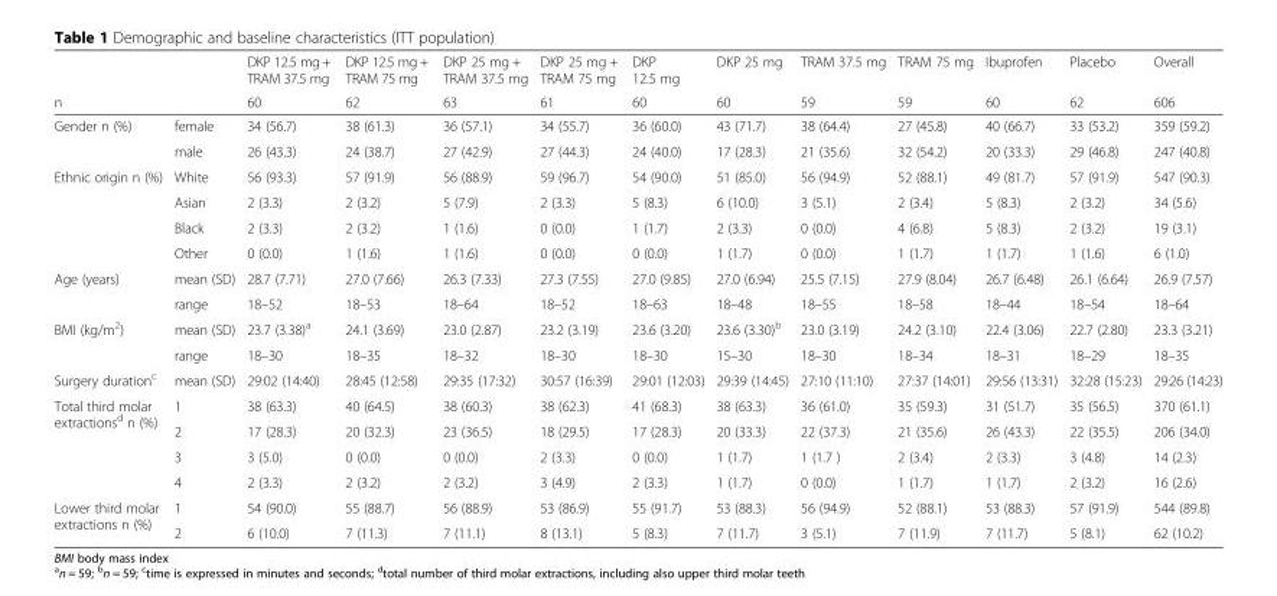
<table><thead><tr><td></td><td></td><td rowspan="2">DKP 12.5 mg + TRAM 37.5 mg 60</td><td rowspan="2">DKP 12.5 mg + TRAM 75 mg 62</td><td rowspan="2">DKP 25 mg + TRAM 37.5 mg 63</td><td rowspan="2">DKP 25 mg + TRAM 75 mg 61</td><td rowspan="2">DKP 12.5 mg 60</td><td rowspan="2">DKP 25 mg 60</td><td rowspan="2">TRAM 37.5 mg 59</td><td rowspan="2">TRAM 75 mg 59</td><td rowspan="2">Ibuprofen 60</td><td rowspan="2">Placebo 62</td><td rowspan="2">Overall 606</td></tr><tr><td colspan="2">n</td></tr></thead><tbody><tr><td rowspan="2">Gender n (%)</td><td>female</td><td>34 (56.7)</td><td>38 (61.3)</td><td>36 (57.1)</td><td>34 (55.7)</td><td>36 (60.0)</td><td>43 (71.7)</td><td>38 (64.4)</td><td>27 (45.8)</td><td>40 (66.7)</td><td>33 (53.2)</td><td>359 (59.2)</td></tr><tr><td>male</td><td>26 (43.3)</td><td>24 (38.7)</td><td>27 (42.9)</td><td>27 (44.3)</td><td>24 (40.0)</td><td>17 (28.3)</td><td>21 (35.6)</td><td>32 (54.2)</td><td>20 (33.3)</td><td>29 (46.8)</td><td>247 (40.8)</td></tr><tr><td rowspan="4">Ethnic origin n (%)</td><td>White</td><td>56 (93.3)</td><td>57 (91.9)</td><td>56 (88.9)</td><td>59 (96.7)</td><td>54 (90.0)</td><td>51 (85.0)</td><td>56 (94.9)</td><td>52 (88.1)</td><td>49 (81.7)</td><td>57 (91.9)</td><td>547 (90.3)</td></tr><tr><td>Asian</td><td>2 (3.3)</td><td>2 (3.2)</td><td>5 (7.9)</td><td>2 (3.3)</td><td>5 (8.3)</td><td>6 (10.0)</td><td>3 (5.1)</td><td>2 (3.4)</td><td>5 (8.3)</td><td>2 (3.2)</td><td>34 (5.6)</td></tr><tr><td>Black</td><td>2 (3.3)</td><td>2 (3.2)</td><td>1 (1.6)</td><td>0 (0.0)</td><td>1 (1.7)</td><td>2 (3.3)</td><td>0 (0.0)</td><td>4 (6.8)</td><td>5 (8.3)</td><td>2 (3.2)</td><td>19 (3.1)</td></tr><tr><td>Other</td><td>0 (0.0)</td><td>1 (1.6)</td><td>1 (1.6)</td><td>0 (0.0)</td><td>0 (0.0)</td><td>1 (1.7)</td><td>0 (0.0)</td><td>1 (1.7)</td><td>1 (1.7)</td><td>1 (1.6)</td><td>6 (1.0)</td></tr><tr><td rowspan="2">Age (years)</td><td>mean (SD)</td><td>28.7 (7.71)</td><td>27.0 (7.66)</td><td>26.3 (7.33)</td><td>27.3 (7.55)</td><td>27.0 (9.85)</td><td>27.0 (6.94)</td><td>25.5 (7.15)</td><td>27.9 (8.04)</td><td>26.7 (6.48)</td><td>26.1 (6.64)</td><td>26.9 (7.57)</td></tr><tr><td>range</td><td>18–52</td><td>18–53</td><td>18–64</td><td>18–52</td><td>18–63</td><td>18–48</td><td>18–55</td><td>18–58</td><td>18–44</td><td>18–54</td><td>18–64</td></tr><tr><td rowspan="2">BMI (kg/m<sup>2</sup>)</td><td>mean (SD)</td><td>23.7 (3.38)<sup>a</sup></td><td>24.1 (3.69)</td><td>23.0 (2.87)</td><td>23.2 (3.19)</td><td>23.6 (3.20)</td><td>23.6 (3.30)<sup>b</sup></td><td>23.0 (3.19)</td><td>24.2 (3.10)</td><td>22.4 (3.06)</td><td>22.7 (2.80)</td><td>23.3 (3.21)</td></tr><tr><td>range</td><td>18–30</td><td>18–35</td><td>18–32</td><td>18–30</td><td>18–30</td><td>15–30</td><td>18–30</td><td>18–34</td><td>18–31</td><td>18–29</td><td>18–35</td></tr><tr><td>Surgery duration<sup>c</sup></td><td>mean (SD)</td><td>29:02 (14:40)</td><td>28:45 (12:58)</td><td>29:35 (17:32)</td><td>30:57 (16:39)</td><td>29:01 (12:03)</td><td>29:39 (14:45)</td><td>27:10 (11:10)</td><td>27:37 (14:01)</td><td>29:56 (13:31)</td><td>32:28 (15:23)</td><td>29:26 (14:23)</td></tr><tr><td rowspan="4">Total third molar extractions<sup>d</sup> n (%)</td><td>1</td><td>38 (63.3)</td><td>40 (64.5)</td><td>38 (60.3)</td><td>38 (62.3)</td><td>41 (68.3)</td><td>38 (63.3)</td><td>36 (61.0)</td><td>35 (59.3)</td><td>31 (51.7)</td><td>35 (56.5)</td><td>370 (61.1)</td></tr><tr><td>2</td><td>17 (28.3)</td><td>20 (32.3)</td><td>23 (36.5)</td><td>18 (29.5)</td><td>17 (28.3)</td><td>20 (33.3)</td><td>22 (37.3)</td><td>21 (35.6)</td><td>26 (43.3)</td><td>22 (35.5)</td><td>206 (34.0)</td></tr><tr><td>3</td><td>3 (5.0)</td><td>0 (0.0)</td><td>0 (0.0)</td><td>2 (3.3)</td><td>0 (0.0)</td><td>1 (1.7)</td><td>1 (1.7 )</td><td>2 (3.4)</td><td>2 (3.3)</td><td>3 (4.8)</td><td>14 (2.3)</td></tr><tr><td>4</td><td>2 (3.3)</td><td>2 (3.2)</td><td>2 (3.2)</td><td>3 (4.9)</td><td>2 (3.3)</td><td>1 (1.7)</td><td>0 (0.0)</td><td>1 (1.7)</td><td>1 (1.7)</td><td>2 (3.2)</td><td>16 (2.6)</td></tr><tr><td rowspan="2">Lower third molar extractions n (%)</td><td>1</td><td>54 (90.0)</td><td>55 (88.7)</td><td>56 (88.9)</td><td>53 (86.9)</td><td>55 (91.7)</td><td>53 (88.3)</td><td>56 (94.9)</td><td>52 (88.1)</td><td>53 (88.3)</td><td>57 (91.9)</td><td>544 (89.8)</td></tr><tr><td>2</td><td>6 (10.0)</td><td>7 (11.3)</td><td>7 (11.1)</td><td>8 (13.1)</td><td>5 (8.3)</td><td>7 (11.7)</td><td>3 (5.1)</td><td>7 (11.9)</td><td>7 (11.7)</td><td>5 (8.1)</td><td>62 (10.2)</td></tr></tbody></table>